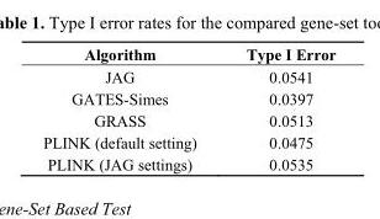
<table><thead><tr><td>Algorithm</td><td>Type I Error</td></tr></thead><tbody><tr><td>JAG</td><td>0.0541</td></tr><tr><td>GATES-Simes</td><td>0.0397</td></tr><tr><td>GRASS</td><td>0.0513</td></tr><tr><td>PLINK (default setting)</td><td>0.0475</td></tr><tr><td>PLINK (JAG settings)</td><td>0.0535</td></tr></tbody></table>